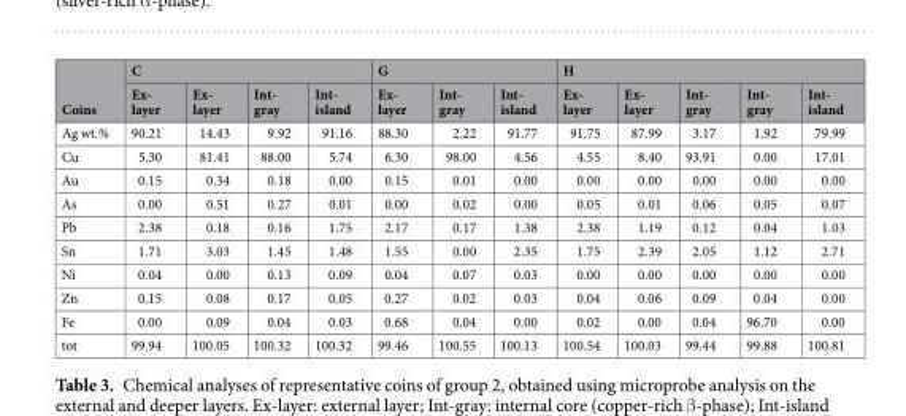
<table><thead><tr><td rowspan="2">Coins</td><td colspan="4">C</td><td colspan="3">G</td><td colspan="5">H</td></tr><tr><td>Ex- layer</td><td>Ex- layer</td><td>Int- gray</td><td>Int- island</td><td>Ex- layer</td><td>Int- gray</td><td>Int- island</td><td>Ex- layer</td><td>Ex- layer</td><td>Int- gray</td><td>Int- gray</td><td>Int- island</td></tr></thead><tbody><tr><td>Ag wt.%</td><td>90.21</td><td>14.43</td><td>9.92</td><td>91.16</td><td>88.30</td><td>2.22</td><td>91.77</td><td>91.75</td><td>87.99</td><td>3.17</td><td>1.92</td><td>79.99</td></tr><tr><td>Cu</td><td>5.30</td><td>81.41</td><td>88.00</td><td>5.74</td><td>6.30</td><td>98.00</td><td>4.56</td><td>4.55</td><td>8.40</td><td>93.91</td><td>0.00</td><td>17.01</td></tr><tr><td>Au</td><td>0.15</td><td>0.34</td><td>0.18</td><td>0.00</td><td>0.15</td><td>0.01</td><td>0.00</td><td>0.00</td><td>0.00</td><td>0.00</td><td>0.00</td><td>0.00</td></tr><tr><td>As</td><td>0.00</td><td>0.51</td><td>0.27</td><td>0.01</td><td>0.00</td><td>0.02</td><td>0.00</td><td>0.05</td><td>0.01</td><td>0.06</td><td>0.05</td><td>0.07</td></tr><tr><td>Pb</td><td>2.38</td><td>0.18</td><td>0.16</td><td>1.75</td><td>2.17</td><td>0.17</td><td>1.38</td><td>2.38</td><td>1.19</td><td>0.12</td><td>0.04</td><td>1.03</td></tr><tr><td>Sn</td><td>1.71</td><td>3.03</td><td>1.45</td><td>1.48</td><td>1.55</td><td>0.00</td><td>2.35</td><td>1.75</td><td>2.39</td><td>2.05</td><td>1.12</td><td>2.71</td></tr><tr><td>Ni</td><td>0.04</td><td>0.00</td><td>0.13</td><td>0.09</td><td>0.04</td><td>0.07</td><td>0.03</td><td>0.00</td><td>0.00</td><td>0.00</td><td>0.00</td><td>0.00</td></tr><tr><td>Zn</td><td>0.15</td><td>0.08</td><td>0.17</td><td>0.05</td><td>0.27</td><td>0.02</td><td>0.03</td><td>0.04</td><td>0.06</td><td>0.09</td><td>0.04</td><td>0.00</td></tr><tr><td>Fe</td><td>0.00</td><td>0.09</td><td>0.04</td><td>0.03</td><td>0.68</td><td>0.04</td><td>0.00</td><td>0.02</td><td>0.00</td><td>0.04</td><td>96.70</td><td>0.00</td></tr><tr><td>tot</td><td>99.94</td><td>100.05</td><td>100.32</td><td>100.32</td><td>99.46</td><td>100.55</td><td>100.13</td><td>100.54</td><td>100.03</td><td>99.44</td><td>99.88</td><td>100.81</td></tr></tbody></table>